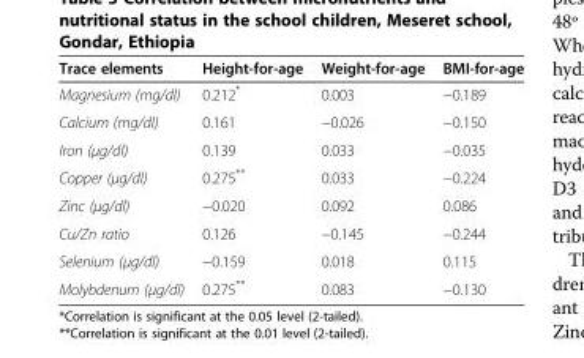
<table><thead><tr><td>Trace elements</td><td>Height-for-age</td><td>Weight-for-age</td><td>BMI-for-age</td></tr></thead><tbody><tr><td>Magnesium (mg/dl)</td><td>0.212*</td><td>0.003</td><td>−0.189</td></tr><tr><td>Calcium (mg/dl)</td><td>0.161</td><td>−0.026</td><td>−0.150</td></tr><tr><td>Iron (μg/dl)</td><td>0.139</td><td>0.033</td><td>−0.035</td></tr><tr><td>Copper (μg/dl)</td><td>0.275**</td><td>0.033</td><td>−0.224</td></tr><tr><td>Zinc (μg/dl)</td><td>−0.020</td><td>0.092</td><td>0.086</td></tr><tr><td>Cu/Zn ratio</td><td>0.126</td><td>−0.145</td><td>−0.244</td></tr><tr><td>Selenium (μg/dl)</td><td>−0.159</td><td>0.018</td><td>0.115</td></tr><tr><td>Molybdenum (μg/dl)</td><td>0.275**</td><td>0.083</td><td>−0.130</td></tr></tbody></table>